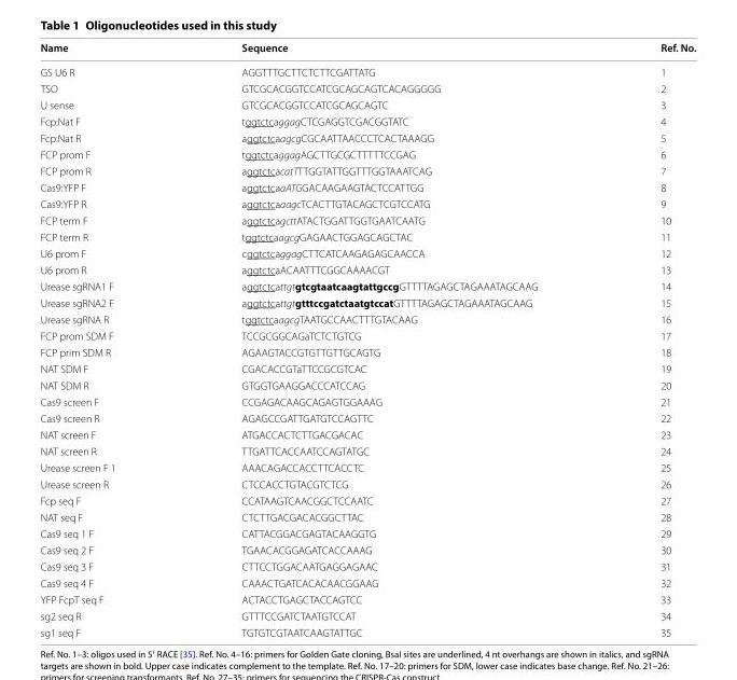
<table><thead><tr><td>Name</td><td>Sequence</td><td>Ref. No.</td></tr></thead><tbody><tr><td>GS U6 R</td><td>AGGTTTGCTTCTCTTCGATTATG</td><td>1</td></tr><tr><td>TSO</td><td>GTCGCACGGTCCATCGCAGCAGTCACAGGGGG</td><td>2</td></tr><tr><td>U sense</td><td>GTCGCACGGTCCATCGCAGCAGTC</td><td>3</td></tr><tr><td>Fcp:Nat F</td><td>tggtctcaggagCTCGAGGTCGACGGTATC</td><td>4</td></tr><tr><td>Fcp:Nat R</td><td>aggtctcaagcgCGCAATTAACCCTCACTAAAGG</td><td>5</td></tr><tr><td>FCP prom F</td><td>tggtctcaggagAGCTTGCGCTTTTTCCGAG</td><td>6</td></tr><tr><td>FCP prom R</td><td>aggtctcacatTTTGGTATTGGTTTGGTAAATCAG</td><td>7</td></tr><tr><td>Cas9:YFP F</td><td>aggtctcaaATGGACAAGAAGTACTCCATTGG</td><td>8</td></tr><tr><td>Cas9:YFP R</td><td>aggtctcaaagcTCACTTGTACAGCTCGTCCATG</td><td>9</td></tr><tr><td>FCP term F</td><td>aggtctcagcttATACTGGATTGGTGAATCAATG</td><td>10</td></tr><tr><td>FCP term R</td><td>tggtctcaagcgGAGAACTGGAGCAGCTAC</td><td>11</td></tr><tr><td>U6 prom F</td><td>cggtctcaggagCTTCATCAAGAGAGCAACCA</td><td>12</td></tr><tr><td>U6 prom R</td><td>aggtctcaACAATTTCGGCAAAACGT</td><td>13</td></tr><tr><td>Urease sgRNA1 F</td><td>aggtctcattgtgtcgtaatcaagtattgccgGTTTTAGAGCTAGAAATAGCAAG</td><td>14</td></tr><tr><td>Urease sgRNA2 F</td><td>aggtctcattgtgtttccgatctaatgtccatGTTTTAGAGCTAGAAATAGCAAG</td><td>15</td></tr><tr><td>Urease sgRNA R</td><td>tggtctcaagcgTAATGCCAACTTTGTACAAG</td><td>16</td></tr><tr><td>FCP prom SDM F</td><td>TCCGCGGCAGaTCTCTGTCG</td><td>17</td></tr><tr><td>FCP prim SDM R</td><td>AGAAGTACCGTGTTGTTGCAGTG</td><td>18</td></tr><tr><td>NAT SDM F</td><td>CGACACCGTaTTCCGCGTCAC</td><td>19</td></tr><tr><td>NAT SDM R</td><td>GTGGTGAAGGACCCATCCAG</td><td>20</td></tr><tr><td>Cas9 screen F</td><td>CCGAGACAAGCAGAGTGGAAAG</td><td>21</td></tr><tr><td>Cas9 screen R</td><td>AGAGCCGATTGATGTCCAGTTC</td><td>22</td></tr><tr><td>NAT screen F</td><td>ATGACCACTCTTGACGACAC</td><td>23</td></tr><tr><td>NAT screen R</td><td>TTGATTCACCAATCCAGTATGC</td><td>24</td></tr><tr><td>Urease screen F 1</td><td>AAACAGACCACCTTCACCTC</td><td>25</td></tr><tr><td>Urease screen R</td><td>CTCCACCTGTACGTCTCG</td><td>26</td></tr><tr><td>Fcp seq F</td><td>CCATAAGTCAACGGCTCCAATC</td><td>27</td></tr><tr><td>NAT seq F</td><td>CTCTTGACGACACGGCTTAC</td><td>28</td></tr><tr><td>Cas9 seq 1 F</td><td>CATTACGGACGAGTACAAGGTG</td><td>29</td></tr><tr><td>Cas9 seq 2 F</td><td>TGAACACGGAGATCACCAAAG</td><td>30</td></tr><tr><td>Cas9 seq 3 F</td><td>CTTCCTGGACAATGAGGAGAAC</td><td>31</td></tr><tr><td>Cas9 seq 4 F</td><td>CAAACTGATCACACAACGGAAG</td><td>32</td></tr><tr><td>YFP FcpT seq F</td><td>ACTACCTGAGCTACCAGTCC</td><td>33</td></tr><tr><td>sg2 seq R</td><td>GTTTCCGATCTAATGTCCAT</td><td>34</td></tr><tr><td>sg1 seq F</td><td>TGTGTCGTAATCAAGTATTGC</td><td>35</td></tr></tbody></table>